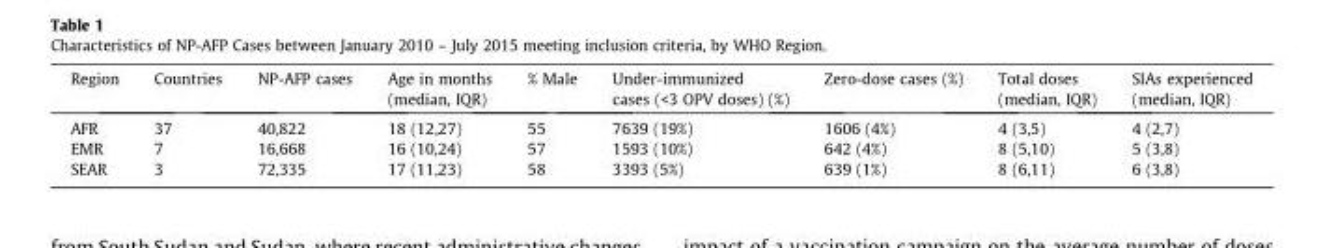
<table><thead><tr><td>Region</td><td>Countries</td><td>NP-AFP cases</td><td>Age in months (median, IQR)</td><td>% Male</td><td>Under-immunized cases (&lt;3 OPV doses) (%)</td><td>Zero-dose cases (%)</td><td>Total doses (median, IQR)</td><td>SIAs experienced (median, IQR)</td></tr></thead><tbody><tr><td>AFR</td><td>37</td><td>40,822</td><td>18 (12,27)</td><td>55</td><td>7639 (19%)</td><td>1606 (4%)</td><td>4 (3,5)</td><td>4 (2,7)</td></tr><tr><td>EMR</td><td>7</td><td>16,668</td><td>16 (10,24)</td><td>57</td><td>1593 (10%)</td><td>642 (4%)</td><td>8 (5,10)</td><td>5 (3,8)</td></tr><tr><td>SEAR</td><td>3</td><td>72,335</td><td>17 (11,23)</td><td>58</td><td>3393 (5%)</td><td>639 (1%)</td><td>8 (6,11)</td><td>6 (3,8)</td></tr></tbody></table>